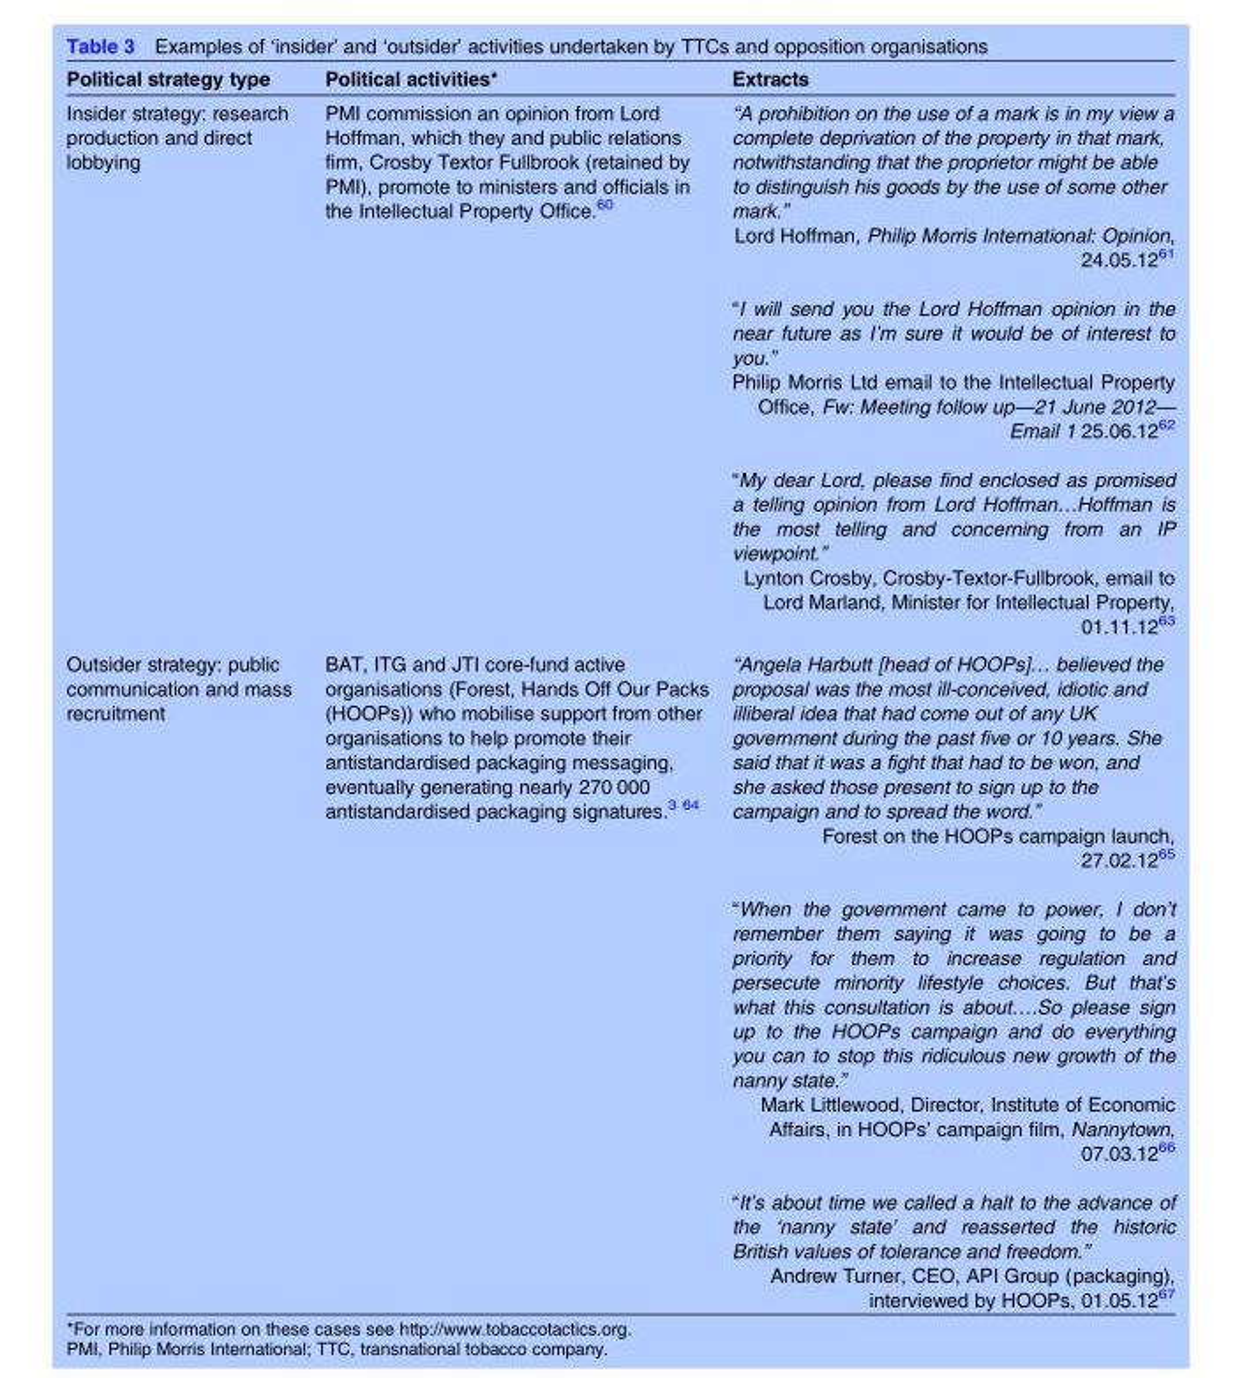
<table><thead><tr><td>Political strategy type</td><td>Political activities*</td><td>Extracts</td></tr></thead><tbody><tr><td>Insider strategy: research production and direct lobbying</td><td>PMI commission an opinion from Lord Hoffman, which they and public relations firm, Crosby Textor Fullbrook (retained by PMI), promote to ministers and officials in the Intellectual Property Office.<sup>60</sup></td><td>“A prohibition on the use of a mark is in my view a complete deprivation of the property in that mark, notwithstanding that the proprietor might be able to distinguish his goods by the use of some other mark.” Lord Hoffman, Philip Morris International: Opinion, 24.05.12<sup>61</sup> “I will send you the Lord Hoffman opinion in the near future as I’m sure it would be of interest to you.” Philip Morris Ltd email to the Intellectual Property Office, Fw: Meeting follow up—21 June 2012— Email 1 25.06.12<sup>62</sup> “My dear Lord, please find enclosed as promised a telling opinion from Lord Hoffman…Hoffman is the most telling and concerning from an IP viewpoint.” Lynton Crosby, Crosby-Textor-Fullbrook, email to Lord Marland, Minister for Intellectual Property, 01.11.12<sup>63</sup></td></tr><tr><td>Outsider strategy: public communication and mass recruitment</td><td>BAT, ITG and JTI core-fund active organisations (Forest, Hands Off Our Packs (HOOPs)) who mobilise support from other organisations to help promote their antistandardised packaging messaging, eventually generating nearly 270 000 antistandardised packaging signatures.<sup>3 64</sup></td><td>“Angela Harbutt [head of HOOPs]… believed the proposal was the most ill-conceived, idiotic and illiberal idea that had come out of any UK government during the past five or 10 years. She said that it was a fight that had to be won, and she asked those present to sign up to the campaign and to spread the word.” Forest on the HOOPs campaign launch, 27.02.12<sup>65</sup> “When the government came to power, I don’t remember them saying it was going to be a priority for them to increase regulation and persecute minority lifestyle choices. But that’s what this consultation is about….So please sign up to the HOOPs campaign and do everything you can to stop this ridiculous new growth of the nanny state.” Mark Littlewood, Director, Institute of Economic Affairs, in HOOPs’ campaign film, Nannytown, 07.03.12<sup>66</sup> “It’s about time we called a halt to the advance of the ‘nanny state’ and reasserted the historic British values of tolerance and freedom.” Andrew Turner, CEO, API Group (packaging), interviewed by HOOPs, 01.05.12<sup>67</sup></td></tr></tbody></table>